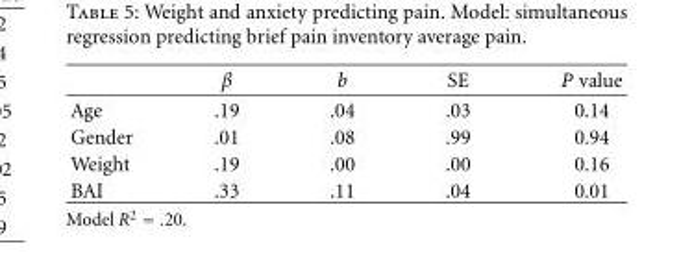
<table><thead><tr><td></td><td>β</td><td>b</td><td>SE</td><td>P value</td></tr></thead><tbody><tr><td>Age</td><td>.19</td><td>.04</td><td>.03</td><td>0.14</td></tr><tr><td>Gender</td><td>.01</td><td>.08</td><td>.99</td><td>0.94</td></tr><tr><td>Weight</td><td>.19</td><td>.00</td><td>.00</td><td>0.16</td></tr><tr><td>BAI</td><td>.33</td><td>.11</td><td>.04</td><td>0.01</td></tr></tbody></table>